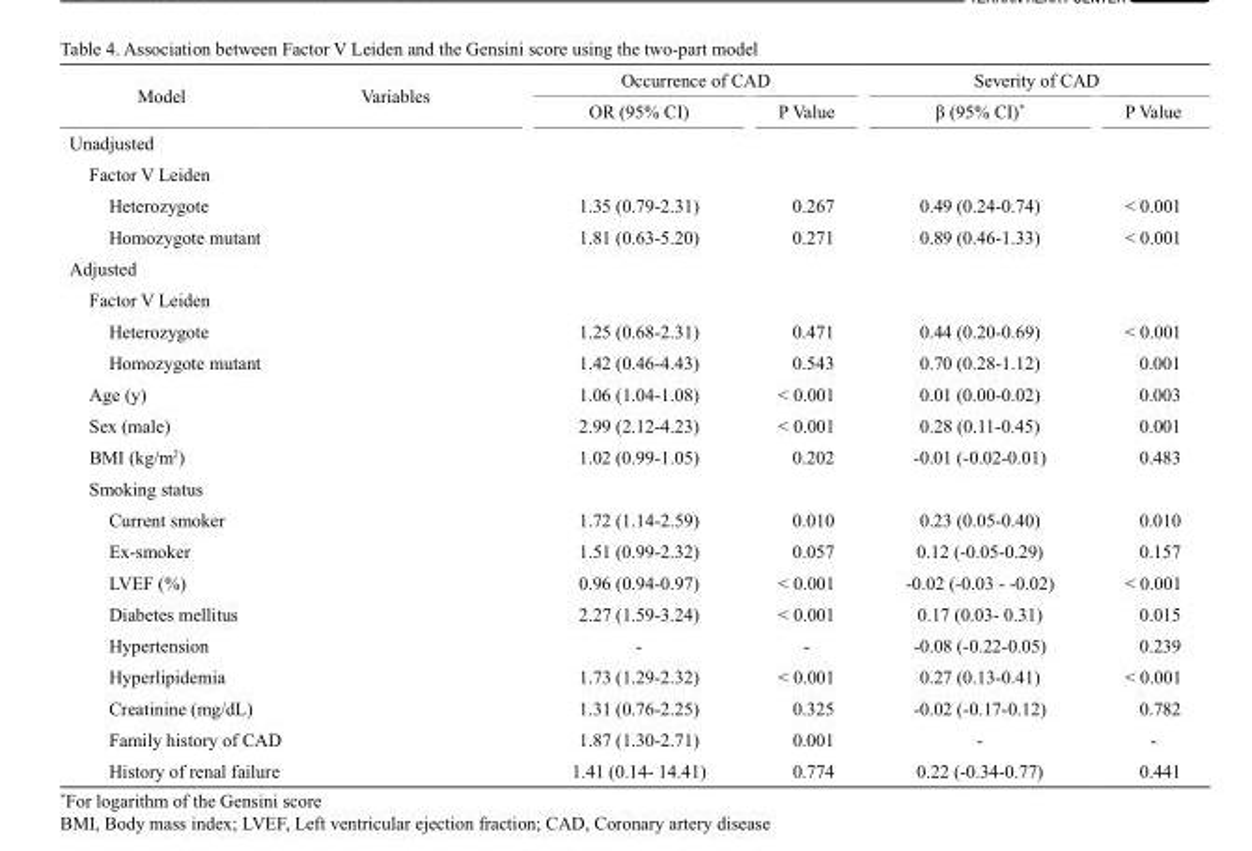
<table><thead><tr><td rowspan="2">Model</td><td rowspan="2">Variables</td><td colspan="2">Occurrence of CAD</td><td colspan="2">Severity of CAD</td></tr><tr><td>OR (95% CI)</td><td>P Value</td><td>β (95% CI)*</td><td>P Value</td></tr></thead><tbody><tr><td colspan="6">Unadjusted</td></tr><tr><td colspan="6">Factor V Leiden</td></tr><tr><td colspan="2">Heterozygote</td><td>1.35 (0.79-2.31)</td><td>0.267</td><td>0.49 (0.24-0.74)</td><td>&lt; 0.001</td></tr><tr><td colspan="2">Homozygote mutant</td><td>1.81 (0.63-5.20)</td><td>0.271</td><td>0.89 (0.46-1.33)</td><td>&lt; 0.001</td></tr><tr><td colspan="6">Adjusted</td></tr><tr><td colspan="6">Factor V Leiden</td></tr><tr><td colspan="2">Heterozygote</td><td>1.25 (0.68-2.31)</td><td>0.471</td><td>0.44 (0.20-0.69)</td><td>&lt; 0.001</td></tr><tr><td colspan="2">Homozygote mutant</td><td>1.42 (0.46-4.43)</td><td>0.543</td><td>0.70 (0.28-1.12)</td><td>0.001</td></tr><tr><td colspan="2">Age (y)</td><td>1.06 (1.04-1.08)</td><td>&lt; 0.001</td><td>0.01 (0.00-0.02)</td><td>0.003</td></tr><tr><td colspan="2">Sex (male)</td><td>2.99 (2.12-4.23)</td><td>&lt; 0.001</td><td>0.28 (0.11-0.45)</td><td>0.001</td></tr><tr><td colspan="2">BMI (kg/m<sup>2</sup>)</td><td>1.02 (0.99-1.05)</td><td>0.202</td><td>-0.01 (-0.02-0.01)</td><td>0.483</td></tr><tr><td colspan="6">Smoking status</td></tr><tr><td colspan="2">Current smoker</td><td>1.72 (1.14-2.59)</td><td>0.010</td><td>0.23 (0.05-0.40)</td><td>0.010</td></tr><tr><td colspan="2">Ex-smoker</td><td>1.51 (0.99-2.32)</td><td>0.057</td><td>0.12 (-0.05-0.29)</td><td>0.157</td></tr><tr><td colspan="2">LVEF (%)</td><td>0.96 (0.94-0.97)</td><td>&lt; 0.001</td><td>-0.02 (-0.03 - -0.02)</td><td>&lt; 0.001</td></tr><tr><td colspan="2">Diabetes mellitus</td><td>2.27 (1.59-3.24)</td><td>&lt; 0.001</td><td>0.17 (0.03- 0.31)</td><td>0.015</td></tr><tr><td colspan="2">Hypertension</td><td>-</td><td>-</td><td>-0.08 (-0.22-0.05)</td><td>0.239</td></tr><tr><td colspan="2">Hyperlipidemia</td><td>1.73 (1.29-2.32)</td><td>&lt; 0.001</td><td>0.27 (0.13-0.41)</td><td>&lt; 0.001</td></tr><tr><td colspan="2">Creatinine (mg/dL)</td><td>1.31 (0.76-2.25)</td><td>0.325</td><td>-0.02 (-0.17-0.12)</td><td>0.782</td></tr><tr><td colspan="2">Family history of CAD</td><td>1.87 (1.30-2.71)</td><td>0.001</td><td>-</td><td>-</td></tr><tr><td colspan="2">History of renal failure</td><td>1.41 (0.14- 14.41)</td><td>0.774</td><td>0.22 (-0.34-0.77)</td><td>0.441</td></tr></tbody></table>